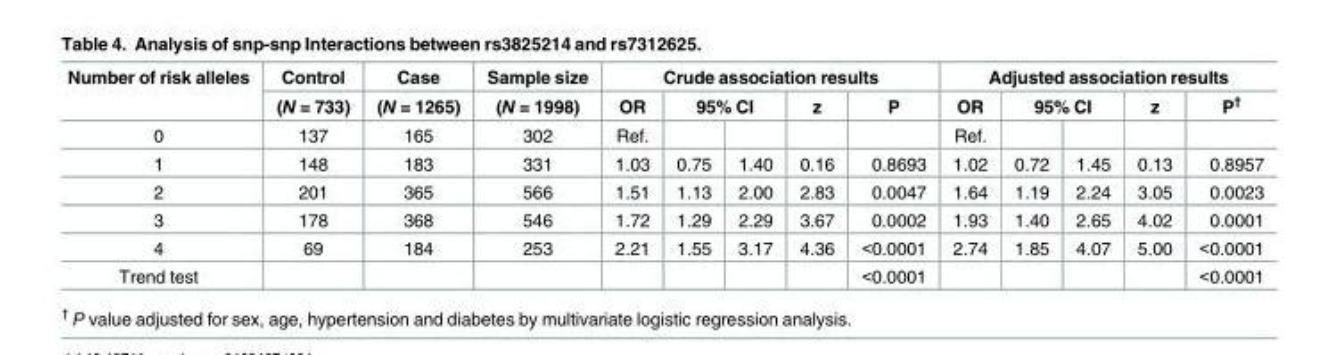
<table><thead><tr><td rowspan="3">Number of risk alleles 0</td><td rowspan="3">Control (N = 733) 137</td><td rowspan="3">Case (N = 1265) 165</td><td rowspan="3">Sample size (N = 1998) 302</td><td colspan="5">Crude association results</td><td colspan="5">Adjusted association results</td></tr><tr><td rowspan="2">OR Ref.</td><td colspan="2">95% CI</td><td rowspan="2">z</td><td rowspan="2">P</td><td rowspan="2">OR Ref.</td><td colspan="2">95% CI</td><td rowspan="2">z</td><td rowspan="2">P<sup>†</sup></td></tr><tr><td></td><td></td><td></td><td></td></tr></thead><tbody><tr><td>1</td><td>148</td><td>183</td><td>331</td><td>1.03</td><td>0.75</td><td>1.40</td><td>0.16</td><td>0.8693</td><td>1.02</td><td>0.72</td><td>1.45</td><td>0.13</td><td>0.8957</td></tr><tr><td>2</td><td>201</td><td>365</td><td>566</td><td>1.51</td><td>1.13</td><td>2.00</td><td>2.83</td><td>0.0047</td><td>1.64</td><td>1.19</td><td>2.24</td><td>3.05</td><td>0.0023</td></tr><tr><td>3</td><td>178</td><td>368</td><td>546</td><td>1.72</td><td>1.29</td><td>2.29</td><td>3.67</td><td>0.0002</td><td>1.93</td><td>1.40</td><td>2.65</td><td>4.02</td><td>0.0001</td></tr><tr><td>4</td><td>69</td><td>184</td><td>253</td><td>2.21</td><td>1.55</td><td>3.17</td><td>4.36</td><td>&lt;0.0001</td><td>2.74</td><td>1.85</td><td>4.07</td><td>5.00</td><td>&lt;0.0001</td></tr><tr><td>Trend test</td><td></td><td></td><td></td><td></td><td></td><td></td><td></td><td>&lt;0.0001</td><td></td><td></td><td></td><td></td><td>&lt;0.0001</td></tr></tbody></table>